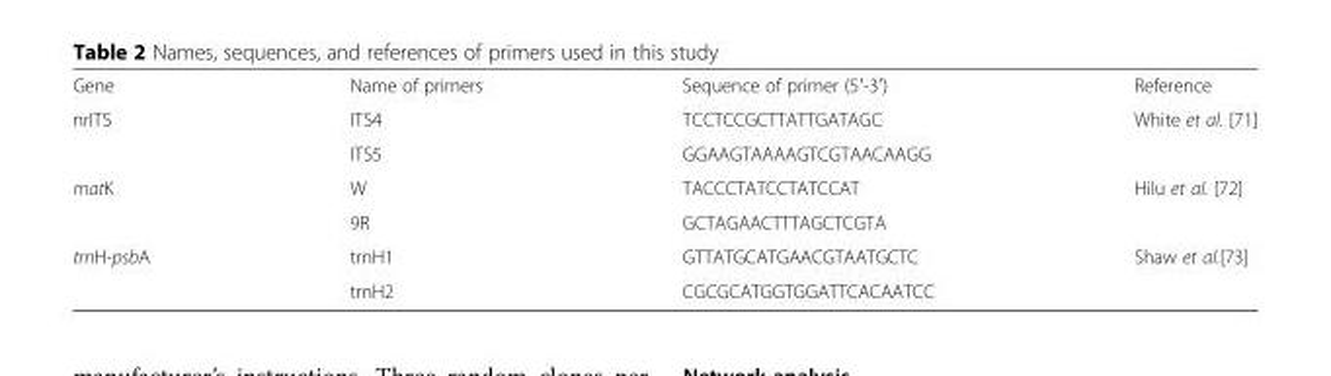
<table><tbody><tr><td>Gene</td><td>Name of primers</td><td>Sequence of primer (5′-3′)</td><td>Reference</td></tr><tr><td rowspan="2">nrITS</td><td>ITS4</td><td>TCCTCCGCTTATTGATAGC</td><td>White et al. [71]</td></tr><tr><td>ITS5</td><td>GGAAGTAAAAGTCGTAACAAGG</td><td></td></tr><tr><td rowspan="2">matK</td><td>W</td><td>TACCCTATCCTATCCAT</td><td>Hilu et al. [72]</td></tr><tr><td>9R</td><td>GCTAGAACTTTAGCTCGTA</td><td></td></tr><tr><td rowspan="2">trnH-psbA</td><td>trnH1</td><td>GTTATGCATGAACGTAATGCTC</td><td>Shaw et al.[73]</td></tr><tr><td>trnH2</td><td>CGCGCATGGTGGATTCACAATCC</td><td></td></tr></tbody></table>